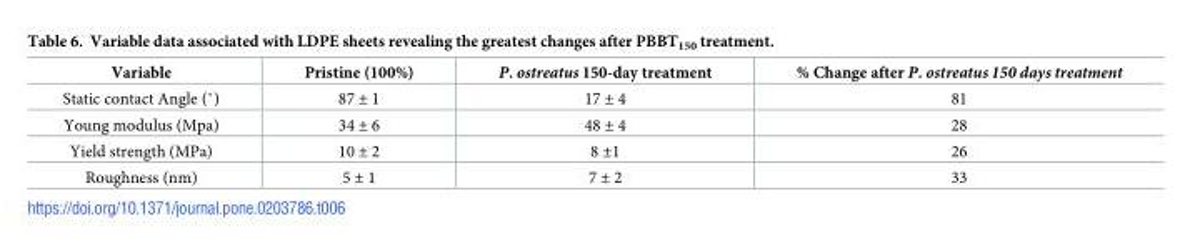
<table><thead><tr><td>Variable</td><td>Pristine (100%)</td><td>P. ostreatus 150-day treatment</td><td>% Change after P. ostreatus 150 days treatment</td></tr></thead><tbody><tr><td>Static contact Angle (˚)</td><td>87 ± 1</td><td>17 ± 4</td><td>81</td></tr><tr><td>Young modulus (Mpa)</td><td>34 ± 6</td><td>48 ± 4</td><td>28</td></tr><tr><td>Yield strength (MPa)</td><td>10 ± 2</td><td>8 ±1</td><td>26</td></tr><tr><td>Roughness (nm)</td><td>5 ± 1</td><td>7 ± 2</td><td>33</td></tr></tbody></table>